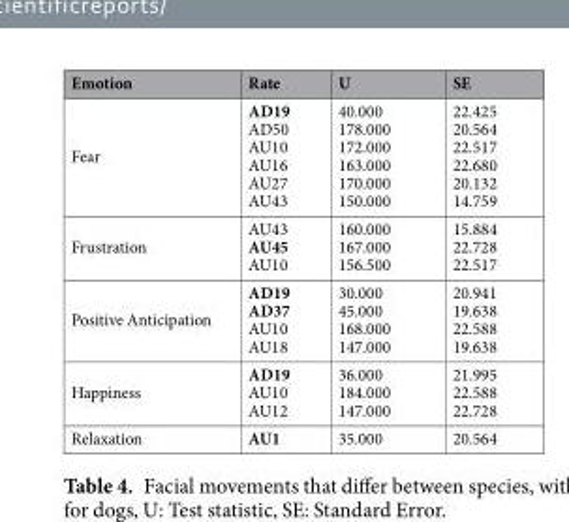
<table><thead><tr><td>Emotion</td><td>Rate</td><td>U</td><td>SE</td></tr></thead><tbody><tr><td>Fear</td><td>AD19 AD50 AU10 AU16 AU27 AU43</td><td>40.000 178.000 172.000 163.000 170.000 150.000</td><td>22.425 20.564 22.517 22.680 20.132 14.759</td></tr><tr><td>Frustration</td><td>AU43 AU45 AU10</td><td>160.000 167.000 156.500</td><td>15.884 22.728 22.517</td></tr><tr><td>Positive Anticipation</td><td>AD19 AD37 AU10 AU18</td><td>30.000 45.000 168.000 147.000</td><td>20.941 19.638 22.588 19.638</td></tr><tr><td>Happiness</td><td>AD19 AU10 AU12</td><td>36.000 184.000 147.000</td><td>21.995 22.588 22.728</td></tr><tr><td>Relaxation</td><td>AU1</td><td>35.000</td><td>20.564</td></tr></tbody></table>